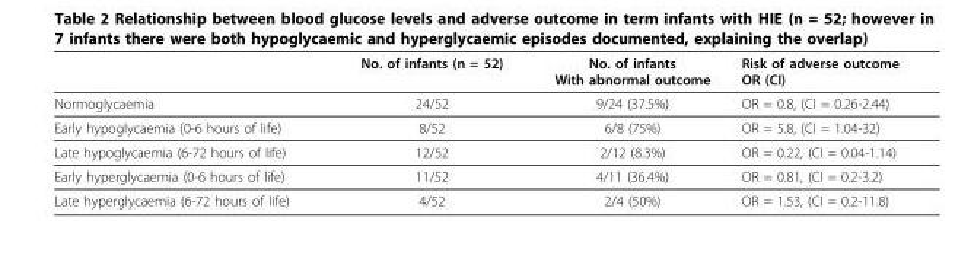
<table><thead><tr><td></td><td>No. of infants (n = 52)</td><td>No. of infants With abnormal outcome</td><td>Risk of adverse outcome OR (CI)</td></tr></thead><tbody><tr><td>Normoglycaemia</td><td>24/52</td><td>9/24 (37.5%)</td><td>OR = 0.8, (CI = 0.26-2.44)</td></tr><tr><td>Early hypoglycaemia (0-6 hours of life)</td><td>8/52</td><td>6/8 (75%)</td><td>OR = 5.8, (CI = 1.04-32)</td></tr><tr><td>Late hypoglycaemia (6-72 hours of life)</td><td>12/52</td><td>2/12 (8.3%)</td><td>OR = 0.22, (CI = 0.04-1.14)</td></tr><tr><td>Early hyperglycaemia (0-6 hours of life)</td><td>11/52</td><td>4/11 (36.4%)</td><td>OR = 0.81, (CI = 0.2-3.2)</td></tr><tr><td>Late hyperglycaemia (6-72 hours of life)</td><td>4/52</td><td>2/4 (50%)</td><td>OR = 1.53, (CI = 0.2-11.8)</td></tr></tbody></table>